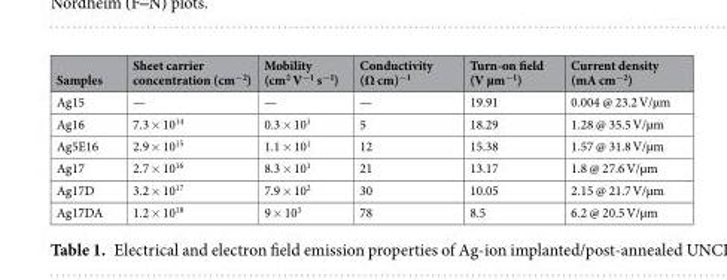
<table><thead><tr><td>Samples</td><td>Sheet carrier concentration (cm<sup>−2</sup>)</td><td>Mobility (cm<sup>2</sup> V<sup>−1</sup> s<sup>−1</sup>)</td><td>Conductivity (Ω cm)<sup>−1</sup></td><td>Turn-on field (V µm<sup>−1</sup>)</td><td>Current density (mA cm<sup>−2</sup>)</td></tr></thead><tbody><tr><td>Ag15</td><td>—</td><td>—</td><td>—</td><td>19.91</td><td>0.004 @ 23.2 V/µm</td></tr><tr><td>Ag16</td><td>7.3 × 10<sup>14</sup></td><td>0.3 × 10<sup>1</sup></td><td>5</td><td>18.29</td><td>1.28 @ 35.5 V/µm</td></tr><tr><td>Ag5E16</td><td>2.9 × 10<sup>15</sup></td><td>1.1 × 10<sup>1</sup></td><td>12</td><td>15.38</td><td>1.57 @ 31.8 V/µm</td></tr><tr><td>Ag17</td><td>2.7 × 10<sup>16</sup></td><td>8.3 × 10<sup>1</sup></td><td>21</td><td>13.17</td><td>1.8 @ 27.6 V/µm</td></tr><tr><td>Ag17D</td><td>3.2 × 10<sup>17</sup></td><td>7.9 × 10<sup>2</sup></td><td>30</td><td>10.05</td><td>2.15 @ 21.7 V/µm</td></tr><tr><td>Ag17DA</td><td>1.2 × 10<sup>18</sup></td><td>9 × 10<sup>3</sup></td><td>78</td><td>8.5</td><td>6.2 @ 20.5 V/µm</td></tr></tbody></table>